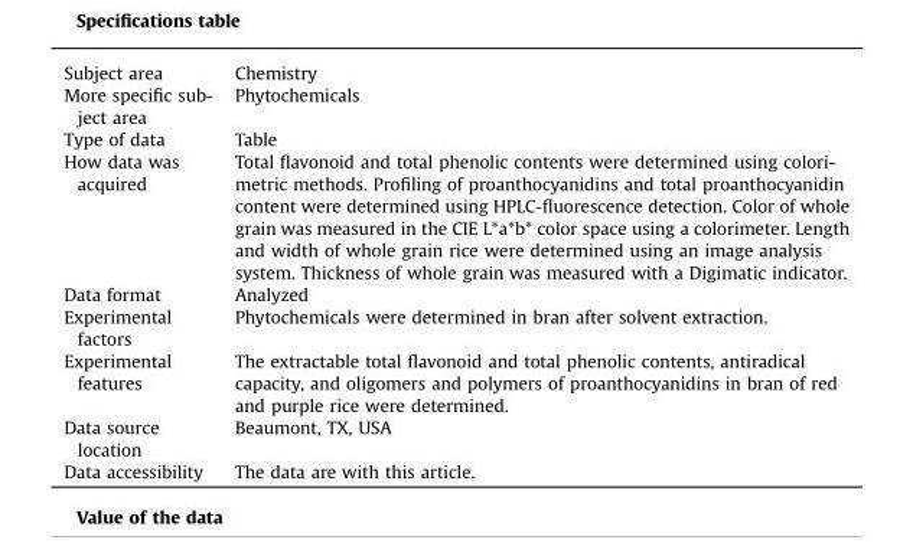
<table><tbody><tr><td>Subject area</td><td>Chemistry</td></tr><tr><td>More specific sub- ject area</td><td>Phytochemicals</td></tr><tr><td>Type of data</td><td>Table</td></tr><tr><td>How data was acquired</td><td>Total flavonoid and total phenolic contents were determined using colori- metric methods. Profiling of proanthocyanidins and total proanthocyanidin content were determined using HPLC-fluorescence detection. Color of whole grain was measured in the CIE L*a*b* color space using a colorimeter. Length and width of whole grain rice were determined using an image analysis system. Thickness of whole grain was measured with a Digimatic indicator.</td></tr><tr><td>Data format</td><td>Analyzed</td></tr><tr><td>Experimental factors</td><td>Phytochemicals were determined in bran after solvent extraction.</td></tr><tr><td>Experimental features</td><td>The extractable total flavonoid and total phenolic contents, antiradical capacity, and oligomers and polymers of proanthocyanidins in bran of red and purple rice were determined.</td></tr><tr><td>Data source location</td><td>Beaumont, TX, USA</td></tr><tr><td>Data accessibility</td><td>The data are with this article.</td></tr></tbody></table>